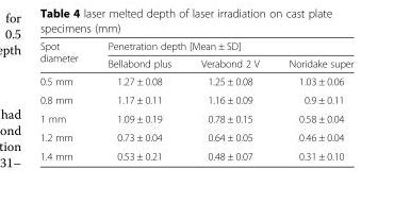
<table><thead><tr><td rowspan="2">Spot diameter</td><td colspan="3">Penetration depth [Mean ± SD]</td></tr><tr><td>Bellabond plus</td><td>Verabond 2 V</td><td>Noridake super</td></tr></thead><tbody><tr><td>0.5 mm</td><td>1.27 ± 0.08</td><td>1.25 ± 0.08</td><td>1.03 ± 0.06</td></tr><tr><td>0.8 mm</td><td>1.17 ± 0.11</td><td>1.16 ± 0.09</td><td>0.9 ± 0.11</td></tr><tr><td>1 mm</td><td>1.09 ± 0.19</td><td>0.78 ± 0.15</td><td>0.58 ± 0.04</td></tr><tr><td>1.2 mm</td><td>0.73 ± 0.04</td><td>0.64 ± 0.05</td><td>0.46 ± 0.04</td></tr><tr><td>1.4 mm</td><td>0.53 ± 0.21</td><td>0.48 ± 0.07</td><td>0.31 ± 0.10</td></tr></tbody></table>